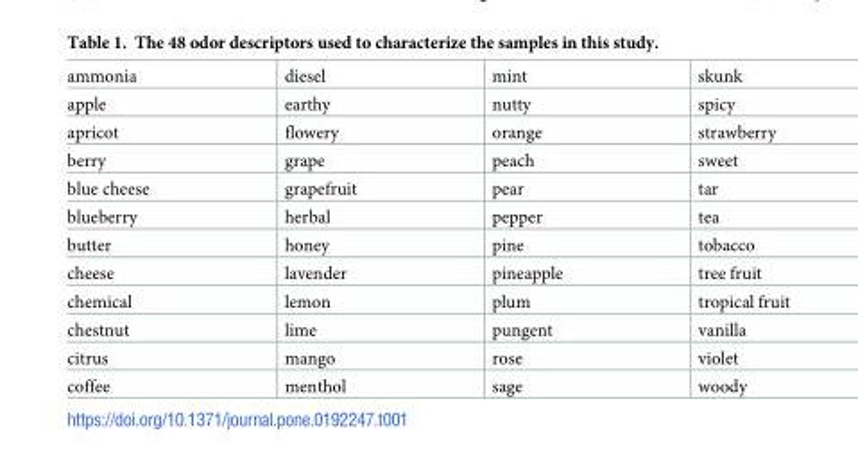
<table><tbody><tr><td>ammonia</td><td>diesel</td><td>mint</td><td>skunk</td></tr><tr><td>apple</td><td>earthy</td><td>nutty</td><td>spicy</td></tr><tr><td>apricot</td><td>flowery</td><td>orange</td><td>strawberry</td></tr><tr><td>berry</td><td>grape</td><td>peach</td><td>sweet</td></tr><tr><td>blue cheese</td><td>grapefruit</td><td>pear</td><td>tar</td></tr><tr><td>blueberry</td><td>herbal</td><td>pepper</td><td>tea</td></tr><tr><td>butter</td><td>honey</td><td>pine</td><td>tobacco</td></tr><tr><td>cheese</td><td>lavender</td><td>pineapple</td><td>tree fruit</td></tr><tr><td>chemical</td><td>lemon</td><td>plum</td><td>tropical fruit</td></tr><tr><td>chestnut</td><td>lime</td><td>pungent</td><td>vanilla</td></tr><tr><td>citrus</td><td>mango</td><td>rose</td><td>violet</td></tr><tr><td>coffee</td><td>menthol</td><td>sage</td><td>woody</td></tr></tbody></table>